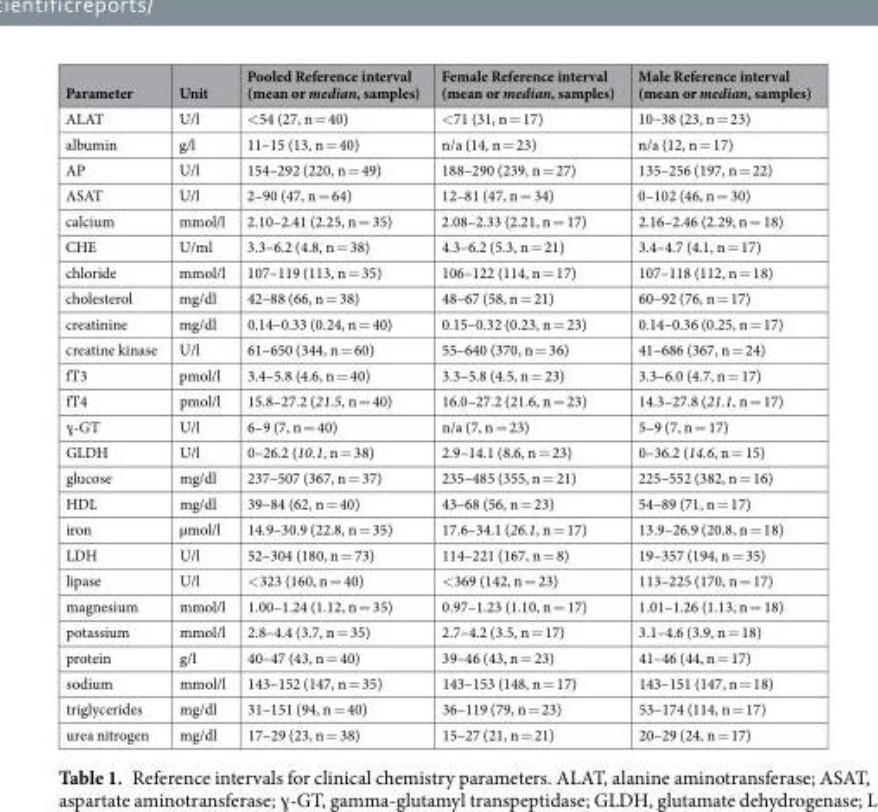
<table><thead><tr><td>Parameter</td><td>Unit</td><td>Pooled Reference interval (mean or median, samples)</td><td>Female Reference interval (mean or median, samples)</td><td>Male Reference interval (mean or median, samples)</td></tr></thead><tbody><tr><td>ALAT</td><td>U/l</td><td>&lt;54 (27, n = 40)</td><td>&lt;71 (31, n = 17)</td><td>10–38 (23, n = 23)</td></tr><tr><td>albumin</td><td>g/l</td><td>11–15 (13, n = 40)</td><td>n/a (14, n = 23)</td><td>n/a (12, n = 17)</td></tr><tr><td>AP</td><td>U/l</td><td>154–292 (220, n = 49)</td><td>188–290 (239, n = 27)</td><td>135–256 (197, n = 22)</td></tr><tr><td>ASAT</td><td>U/l</td><td>2–90 (47, n = 64)</td><td>12–81 (47, n = 34)</td><td>0–102 (46, n = 30)</td></tr><tr><td>calcium</td><td>mmol/l</td><td>2.10–2.41 (2.25, n = 35)</td><td>2.08–2.33 (2.21, n = 17)</td><td>2.16–2.46 (2.29, n = 18)</td></tr><tr><td>CHE</td><td>U/ml</td><td>3.3–6.2 (4.8, n = 38)</td><td>4.3–6.2 (5.3, n = 21)</td><td>3.4–4.7 (4.1, n = 17)</td></tr><tr><td>chloride</td><td>mmol/l</td><td>107–119 (113, n = 35)</td><td>106–122 (114, n = 17)</td><td>107–118 (112, n = 18)</td></tr><tr><td>cholesterol</td><td>mg/dl</td><td>42–88 (66, n = 38)</td><td>48–67 (58, n = 21)</td><td>60–92 (76, n = 17)</td></tr><tr><td>creatinine</td><td>mg/dl</td><td>0.14–0.33 (0.24, n = 40)</td><td>0.15–0.32 (0.23, n = 23)</td><td>0.14–0.36 (0.25, n = 17)</td></tr><tr><td>creatine kinase</td><td>U/l</td><td>61–650 (344, n = 60)</td><td>55–640 (370, n = 36)</td><td>41–686 (367, n = 24)</td></tr><tr><td>fT3</td><td>pmol/l</td><td>3.4–5.8 (4.6, n = 40)</td><td>3.3–5.8 (4.5, n = 23)</td><td>3.3–6.0 (4.7, n = 17)</td></tr><tr><td>fT4</td><td>pmol/l</td><td>15.8–27.2 (21.5, n = 40)</td><td>16.0–27.2 (21.6, n = 23)</td><td>14.3–27.8 (21.1, n = 17)</td></tr><tr><td>ɣ-GT</td><td>U/l</td><td>6–9 (7, n = 40)</td><td>n/a (7, n = 23)</td><td>5–9 (7, n = 17)</td></tr><tr><td>GLDH</td><td>U/l</td><td>0–26.2 (10.1, n = 38)</td><td>2.9–14.1 (8.6, n = 23)</td><td>0–36.2 (14.6, n = 15)</td></tr><tr><td>glucose</td><td>mg/dl</td><td>237–507 (367, n = 37)</td><td>235–485 (355, n = 21)</td><td>225–552 (382, n = 16)</td></tr><tr><td>HDL</td><td>mg/dl</td><td>39–84 (62, n = 40)</td><td>43–68 (56, n = 23)</td><td>54–89 (71, n = 17)</td></tr><tr><td>iron</td><td>µmol/l</td><td>14.9–30.9 (22.8, n = 35)</td><td>17.6–34.1 (26.1, n = 17)</td><td>13.9–26.9 (20.8, n = 18)</td></tr><tr><td>LDH</td><td>U/l</td><td>52–304 (180, n = 73)</td><td>114–221 (167, n = 8)</td><td>19–357 (194, n = 35)</td></tr><tr><td>lipase</td><td>U/l</td><td>&lt;323 (160, n = 40)</td><td>&lt;369 (142, n = 23)</td><td>113–225 (170, n = 17)</td></tr><tr><td>magnesium</td><td>mmol/l</td><td>1.00–1.24 (1.12, n = 35)</td><td>0.97–1.23 (1.10, n = 17)</td><td>1.01–1.26 (1.13, n = 18)</td></tr><tr><td>potassium</td><td>mmol/l</td><td>2.8–4.4 (3.7, n = 35)</td><td>2.7–4.2 (3.5, n = 17)</td><td>3.1–4.6 (3.9, n = 18)</td></tr><tr><td>protein</td><td>g/l</td><td>40–47 (43, n = 40)</td><td>39–46 (43, n = 23)</td><td>41–46 (44, n = 17)</td></tr><tr><td>sodium</td><td>mmol/l</td><td>143–152 (147, n = 35)</td><td>143–153 (148, n = 17)</td><td>143–151 (147, n = 18)</td></tr><tr><td>triglycerides</td><td>mg/dl</td><td>31–151 (94, n = 40)</td><td>36–119 (79, n = 23)</td><td>53–174 (114, n = 17)</td></tr><tr><td>urea nitrogen</td><td>mg/dl</td><td>17–29 (23, n = 38)</td><td>15–27 (21, n = 21)</td><td>20–29 (24, n = 17)</td></tr></tbody></table>